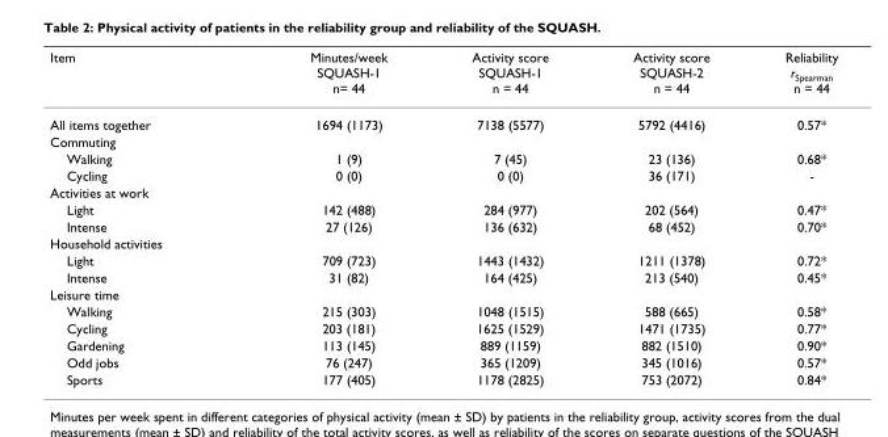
<table><thead><tr><td>Item</td><td>Minutes/week SQUASH-1 n= 44</td><td>Activity score SQUASH-1 n = 44</td><td>Activity score SQUASH-2 n = 44</td><td>Reliability r<sub>Spearman</sub> n = 44</td></tr></thead><tbody><tr><td>All items together</td><td>1694 (1173)</td><td>7138 (5577)</td><td>5792 (4416)</td><td>0.57*</td></tr><tr><td colspan="5">Commuting</td></tr><tr><td>Walking</td><td>1 (9)</td><td>7 (45)</td><td>23 (136)</td><td>0.68*</td></tr><tr><td>Cycling</td><td>0 (0)</td><td>0 (0)</td><td>36 (171)</td><td>-</td></tr><tr><td colspan="5">Activities at work</td></tr><tr><td>Light</td><td>142 (488)</td><td>284 (977)</td><td>202 (564)</td><td>0.47*</td></tr><tr><td>Intense</td><td>27 (126)</td><td>136 (632)</td><td>68 (452)</td><td>0.70*</td></tr><tr><td colspan="5">Household activities</td></tr><tr><td>Light</td><td>709 (723)</td><td>1443 (1432)</td><td>1211 (1378)</td><td>0.72*</td></tr><tr><td>Intense</td><td>31 (82)</td><td>164 (425)</td><td>213 (540)</td><td>0.45*</td></tr><tr><td colspan="5">Leisure time</td></tr><tr><td>Walking</td><td>215 (303)</td><td>1048 (1515)</td><td>588 (665)</td><td>0.58*</td></tr><tr><td>Cycling</td><td>203 (181)</td><td>1625 (1529)</td><td>1471 (1735)</td><td>0.77*</td></tr><tr><td>Gardening</td><td>113 (145)</td><td>889 (1159)</td><td>882 (1510)</td><td>0.90*</td></tr><tr><td>Odd jobs</td><td>76 (247)</td><td>365 (1209)</td><td>345 (1016)</td><td>0.57*</td></tr><tr><td>Sports</td><td>177 (405)</td><td>1178 (2825)</td><td>753 (2072)</td><td>0.84*</td></tr></tbody></table>